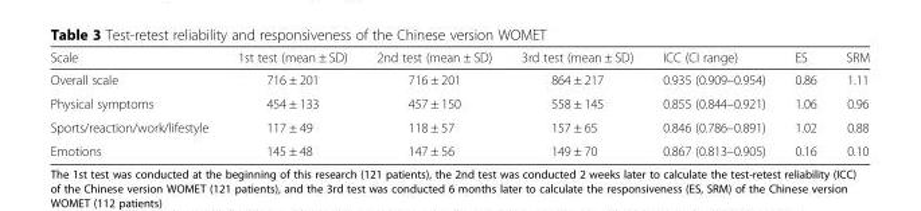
<table><thead><tr><td>Scale</td><td>1st test (mean ± SD)</td><td>2nd test (mean ± SD)</td><td>3rd test (mean ± SD)</td><td>ICC (CI range)</td><td>ES</td><td>SRM</td></tr></thead><tbody><tr><td>Overall scale</td><td>716 ± 201</td><td>716 ± 201</td><td>864 ± 217</td><td>0.935 (0.909–0.954)</td><td>0.86</td><td>1.11</td></tr><tr><td>Physical symptoms</td><td>454 ± 133</td><td>457 ± 150</td><td>558 ± 145</td><td>0.855 (0.844–0.921)</td><td>1.06</td><td>0.96</td></tr><tr><td>Sports/reaction/work/lifestyle</td><td>117 ± 49</td><td>118 ± 57</td><td>157 ± 65</td><td>0.846 (0.786–0.891)</td><td>1.02</td><td>0.88</td></tr><tr><td>Emotions</td><td>145 ± 48</td><td>147 ± 56</td><td>149 ± 70</td><td>0.867 (0.813–0.905)</td><td>0.16</td><td>0.10</td></tr></tbody></table>